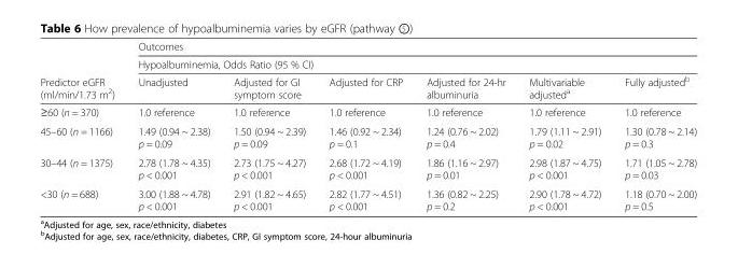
<table><thead><tr><td rowspan="3">Predictor eGFR (ml/min/1.73 m<sup>2</sup>)</td><td rowspan="2" colspan="6">Outcomes Hypoalbuminemia, Odds Ratio (95 % CI)</td></tr><tr></tr><tr><td>Unadjusted</td><td>Adjusted for GI symptom score</td><td>Adjusted for CRP</td><td>Adjusted for 24-hr albuminuria</td><td>Multivariable adjusted<sup>a</sup></td><td>Fully adjusted<sup>b</sup></td></tr></thead><tbody><tr><td>≥60 (n = 370)</td><td>1.0 reference</td><td>1.0 reference</td><td>1.0 reference</td><td>1.0 reference</td><td>1.0 reference</td><td>1.0 reference</td></tr><tr><td>45–60 (n = 1166)</td><td>1.49 (0.94 ~ 2.38) p = 0.09</td><td>1.50 (0.94 ~ 2.39) p = 0.09</td><td>1.46 (0.92 ~ 2.34) p = 0.1</td><td>1.24 (0.76 ~ 2.02) p = 0.4</td><td>1.79 (1.11 ~ 2.91) p = 0.02</td><td>1.30 (0.78 ~ 2.14) p = 0.3</td></tr><tr><td>30–44 (n = 1375)</td><td>2.78 (1.78 ~ 4.35) p &lt; 0.001</td><td>2.73 (1.75 ~ 4.27) p &lt; 0.001</td><td>2.68 (1.72 ~ 4.19) p &lt; 0.001</td><td>1.86 (1.16 ~ 2.97) p = 0.01</td><td>2.98 (1.87 ~ 4.75) p &lt; 0.001</td><td>1.71 (1.05 ~ 2.78) p = 0.03</td></tr><tr><td>&lt;30 (n = 688)</td><td>3.00 (1.88 ~ 4.78) p &lt; 0.001</td><td>2.91 (1.82 ~ 4.65) p &lt; 0.001</td><td>2.82 (1.77 ~ 4.51) p &lt; 0.001</td><td>1.36 (0.82 ~ 2.25) p = 0.2</td><td>2.90 (1.78 ~ 4.72) p &lt; 0.001</td><td>1.18 (0.70 ~ 2.00) p = 0.5</td></tr></tbody></table>